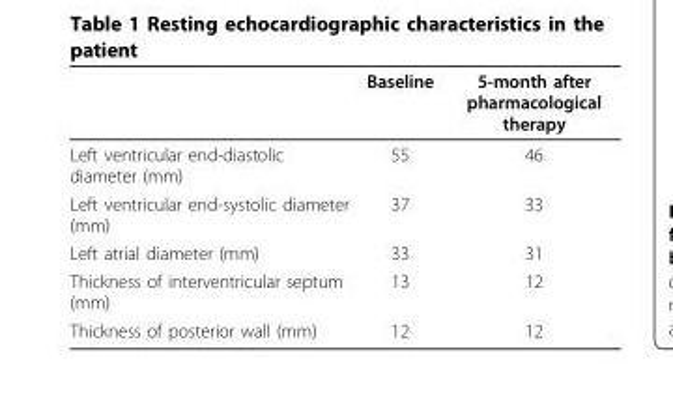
<table><thead><tr><td></td><td>Baseline</td><td>5-month after pharmacological therapy</td></tr></thead><tbody><tr><td>Left ventricular end-diastolic diameter (mm)</td><td>55</td><td>46</td></tr><tr><td>Left ventricular end-systolic diameter (mm)</td><td>37</td><td>33</td></tr><tr><td>Left atrial diameter (mm)</td><td>33</td><td>31</td></tr><tr><td>Thickness of interventricular septum (mm)</td><td>13</td><td>12</td></tr><tr><td>Thickness of posterior wall (mm)</td><td>12</td><td>12</td></tr></tbody></table>